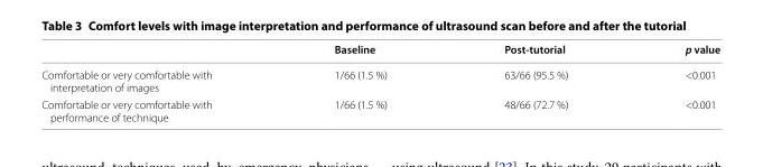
<table><thead><tr><td></td><td>Baseline</td><td>Post-tutorial</td><td>p value</td></tr></thead><tbody><tr><td>Comfortable or very comfortable with interpretation of images</td><td>1/66 (1.5 %)</td><td>63/66 (95.5 %)</td><td>&lt;0.001</td></tr><tr><td>Comfortable or very comfortable with performance of technique</td><td>1/66 (1.5 %)</td><td>48/66 (72.7 %)</td><td>&lt;0.001</td></tr></tbody></table>